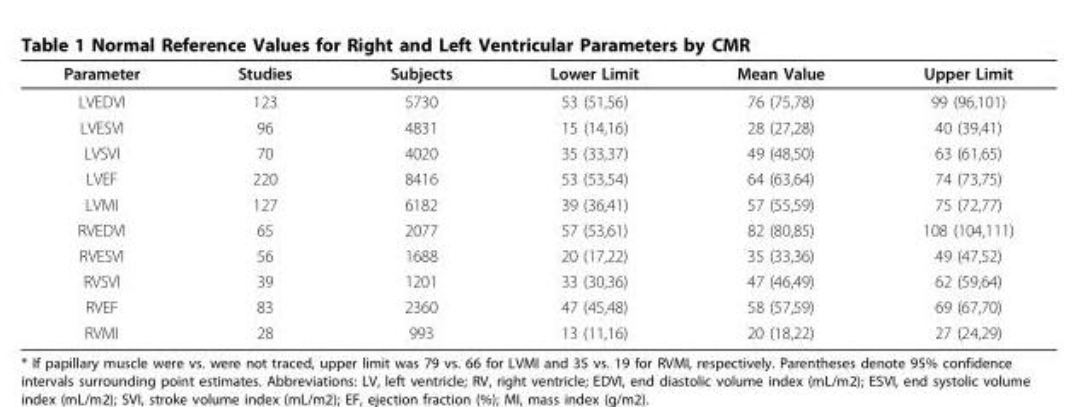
<table><thead><tr><td>Parameter</td><td>Studies</td><td>Subjects</td><td>Lower Limit</td><td>Mean Value</td><td>Upper Limit</td></tr></thead><tbody><tr><td>LVEDVI</td><td>123</td><td>5730</td><td>53 (51,56)</td><td>76 (75,78)</td><td>99 (96,101)</td></tr><tr><td>LVESVI</td><td>96</td><td>4831</td><td>15 (14,16)</td><td>28 (27,28)</td><td>40 (39,41)</td></tr><tr><td>LVSVI</td><td>70</td><td>4020</td><td>35 (33,37)</td><td>49 (48,50)</td><td>63 (61,65)</td></tr><tr><td>LVEF</td><td>220</td><td>8416</td><td>53 (53,54)</td><td>64 (63,64)</td><td>74 (73,75)</td></tr><tr><td>LVMI</td><td>127</td><td>6182</td><td>39 (36,41)</td><td>57 (55,59)</td><td>75 (72,77)</td></tr><tr><td>RVEDVI</td><td>65</td><td>2077</td><td>57 (53,61)</td><td>82 (80,85)</td><td>108 (104,111)</td></tr><tr><td>RVESVI</td><td>56</td><td>1688</td><td>20 (17,22)</td><td>35 (33,36)</td><td>49 (47,52)</td></tr><tr><td>RVSVI</td><td>39</td><td>1201</td><td>33 (30,36)</td><td>47 (46,49)</td><td>62 (59,64)</td></tr><tr><td>RVEF</td><td>83</td><td>2360</td><td>47 (45,48)</td><td>58 (57,59)</td><td>69 (67,70)</td></tr><tr><td>RVMI</td><td>28</td><td>993</td><td>13 (11,16)</td><td>20 (18,22)</td><td>27 (24,29)</td></tr></tbody></table>